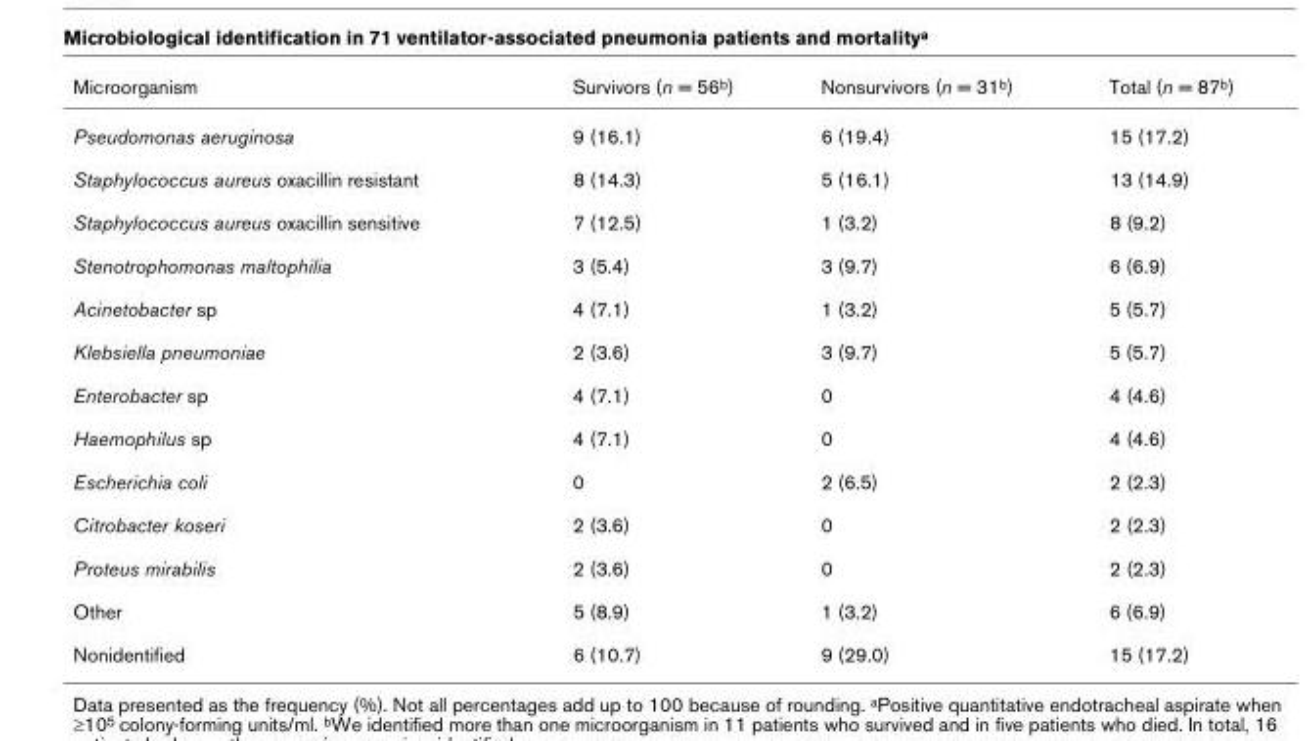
<table><thead><tr><td>Microorganism</td><td>Survivors (n = 56<sup>b</sup>)</td><td>Nonsurvivors (n = 31<sup>b</sup>)</td><td>Total (n = 87<sup>b</sup>)</td></tr></thead><tbody><tr><td>Pseudomonas aeruginosa</td><td>9 (16.1)</td><td>6 (19.4)</td><td>15 (17.2)</td></tr><tr><td>Staphylococcus aureus oxacillin resistant</td><td>8 (14.3)</td><td>5 (16.1)</td><td>13 (14.9)</td></tr><tr><td>Staphylococcus aureus oxacillin sensitive</td><td>7 (12.5)</td><td>1 (3.2)</td><td>8 (9.2)</td></tr><tr><td>Stenotrophomonas maltophilia</td><td>3 (5.4)</td><td>3 (9.7)</td><td>6 (6.9)</td></tr><tr><td>Acinetobacter sp</td><td>4 (7.1)</td><td>1 (3.2)</td><td>5 (5.7)</td></tr><tr><td>Klebsiella pneumoniae</td><td>2 (3.6)</td><td>3 (9.7)</td><td>5 (5.7)</td></tr><tr><td>Enterobacter sp</td><td>4 (7.1)</td><td>0</td><td>4 (4.6)</td></tr><tr><td>Haemophilus sp</td><td>4 (7.1)</td><td>0</td><td>4 (4.6)</td></tr><tr><td>Escherichia coli</td><td>0</td><td>2 (6.5)</td><td>2 (2.3)</td></tr><tr><td>Citrobacter koseri</td><td>2 (3.6)</td><td>0</td><td>2 (2.3)</td></tr><tr><td>Proteus mirabilis</td><td>2 (3.6)</td><td>0</td><td>2 (2.3)</td></tr><tr><td>Other</td><td>5 (8.9)</td><td>1 (3.2)</td><td>6 (6.9)</td></tr><tr><td>Nonidentified</td><td>6 (10.7)</td><td>9 (29.0)</td><td>15 (17.2)</td></tr></tbody></table>